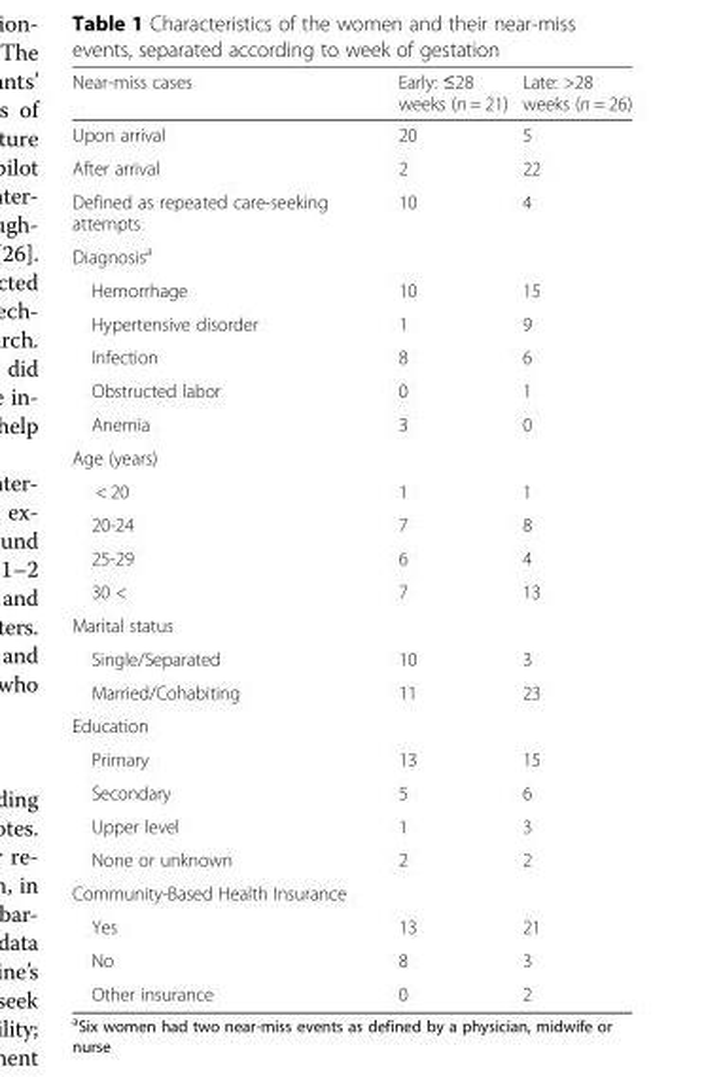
<table><thead><tr><td>Near-miss cases</td><td>Early: ≤28 weeks (n = 21)</td><td>Late: &gt;28 weeks (n = 26)</td></tr></thead><tbody><tr><td>Upon arrival</td><td>20</td><td>5</td></tr><tr><td>After arrival</td><td>2</td><td>22</td></tr><tr><td>Defined as repeated care-seeking attempts</td><td>10</td><td>4</td></tr><tr><td colspan="3">Diagnosis<sup>a</sup></td></tr><tr><td>Hemorrhage</td><td>10</td><td>15</td></tr><tr><td>Hypertensive disorder</td><td>1</td><td>9</td></tr><tr><td>Infection</td><td>8</td><td>6</td></tr><tr><td>Obstructed labor</td><td>0</td><td>1</td></tr><tr><td>Anemia</td><td>3</td><td>0</td></tr><tr><td colspan="3">Age (years)</td></tr><tr><td>&lt; 20</td><td>1</td><td>1</td></tr><tr><td>20-24</td><td>7</td><td>8</td></tr><tr><td>25-29</td><td>6</td><td>4</td></tr><tr><td>30 &lt;</td><td>7</td><td>13</td></tr><tr><td colspan="3">Marital status</td></tr><tr><td>Single/Separated</td><td>10</td><td>3</td></tr><tr><td>Married/Cohabiting</td><td>11</td><td>23</td></tr><tr><td colspan="3">Education</td></tr><tr><td>Primary</td><td>13</td><td>15</td></tr><tr><td>Secondary</td><td>5</td><td>6</td></tr><tr><td>Upper level</td><td>1</td><td>3</td></tr><tr><td>None or unknown</td><td>2</td><td>2</td></tr><tr><td colspan="3">Community-Based Health Insurance</td></tr><tr><td>Yes</td><td>13</td><td>21</td></tr><tr><td>No</td><td>8</td><td>3</td></tr><tr><td>Other insurance</td><td>0</td><td>2</td></tr></tbody></table>